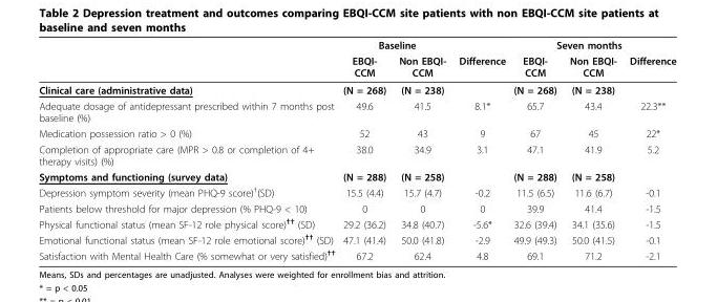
<table><thead><tr><td rowspan="2"></td><td colspan="2">Baseline</td><td rowspan="2">Difference</td><td colspan="2">Seven months</td><td rowspan="2">Difference</td></tr><tr><td>EBQI- CCM</td><td>Non EBQI- CCM</td><td>EBQI- CCM</td><td>Non EBQI- CCM</td></tr></thead><tbody><tr><td>Clinical care (administrative data)</td><td>(N = 268)</td><td>(N = 238)</td><td></td><td>(N = 268)</td><td>(N = 238)</td><td></td></tr><tr><td>Adequate dosage of antidepressant prescribed within 7 months post baseline (%)</td><td>49.6</td><td>41.5</td><td>8.1*</td><td>65.7</td><td>43.4</td><td>22.3**</td></tr><tr><td>Medication possession ratio &gt; 0 (%)</td><td>52</td><td>43</td><td>9</td><td>67</td><td>45</td><td>22*</td></tr><tr><td>Completion of appropriate care (MPR &gt; 0.8 or completion of 4+ therapy visits) (%)</td><td>38.0</td><td>34.9</td><td>3.1</td><td>47.1</td><td>41.9</td><td>5.2</td></tr><tr><td>Symptoms and functioning (survey data)</td><td>(N = 288)</td><td>(N = 258)</td><td></td><td>(N = 288)</td><td>(N = 258)</td><td></td></tr><tr><td>Depression symptom severity (mean PHQ-9 score)<sup>†</sup>(SD)</td><td>15.5 (4.4)</td><td>15.7 (4.7)</td><td>-0.2</td><td>11.5 (6.5)</td><td>11.6 (6.7)</td><td>-0.1</td></tr><tr><td>Patients below threshold for major depression (% PHQ-9 &lt; 10)</td><td>0</td><td>0</td><td>0</td><td>39.9</td><td>41.4</td><td>-1.5</td></tr><tr><td>Physical functional status (mean SF-12 role physical score)<sup>††</sup> (SD)</td><td>29.2 (36.2)</td><td>34.8 (40.7)</td><td>-5.6*</td><td>32.6 (39.4)</td><td>34.1 (35.6)</td><td>-1.5</td></tr><tr><td>Emotional functional status (mean SF-12 role emotional score)<sup>††</sup> (SD)</td><td>47.1 (41.4)</td><td>50.0 (41.8)</td><td>-2.9</td><td>49.9 (49.3)</td><td>50.0 (41.5)</td><td>-0.1</td></tr><tr><td>Satisfaction with Mental Health Care (% somewhat or very satisfied)<sup>††</sup></td><td>67.2</td><td>62.4</td><td>4.8</td><td>69.1</td><td>71.2</td><td>-2.1</td></tr></tbody></table>